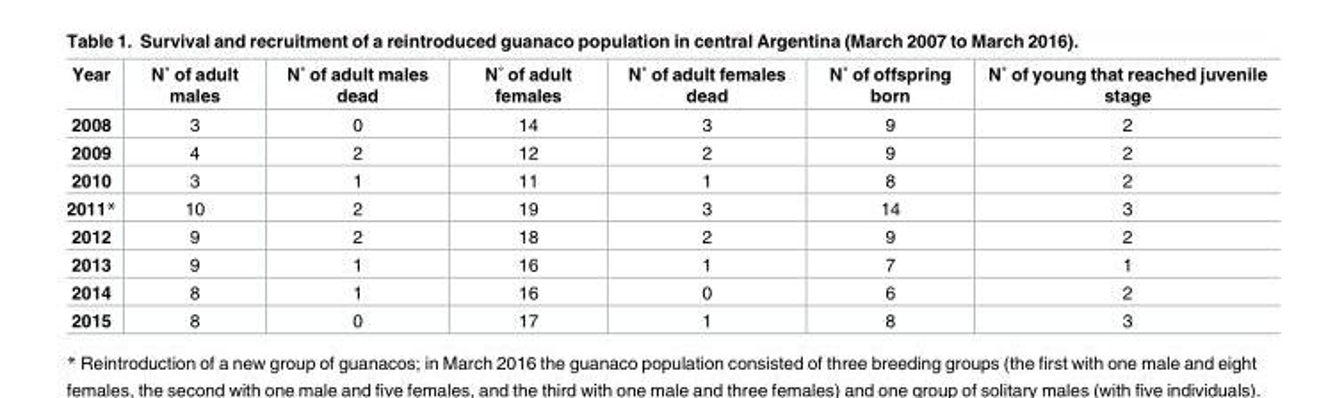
<table><thead><tr><td>Year</td><td>N˚ of adult males</td><td>N˚ of adult males dead</td><td>N˚ of adult females</td><td>N˚ of adult females dead</td><td>N˚ of offspring born</td><td>N˚ of young that reached juvenile stage</td></tr></thead><tbody><tr><td>2008</td><td>3</td><td>0</td><td>14</td><td>3</td><td>9</td><td>2</td></tr><tr><td>2009</td><td>4</td><td>2</td><td>12</td><td>2</td><td>9</td><td>2</td></tr><tr><td>2010</td><td>3</td><td>1</td><td>11</td><td>1</td><td>8</td><td>2</td></tr><tr><td>2011*</td><td>10</td><td>2</td><td>19</td><td>3</td><td>14</td><td>3</td></tr><tr><td>2012</td><td>9</td><td>2</td><td>18</td><td>2</td><td>9</td><td>2</td></tr><tr><td>2013</td><td>9</td><td>1</td><td>16</td><td>1</td><td>7</td><td>1</td></tr><tr><td>2014</td><td>8</td><td>1</td><td>16</td><td>0</td><td>6</td><td>2</td></tr><tr><td>2015</td><td>8</td><td>0</td><td>17</td><td>1</td><td>8</td><td>3</td></tr></tbody></table>